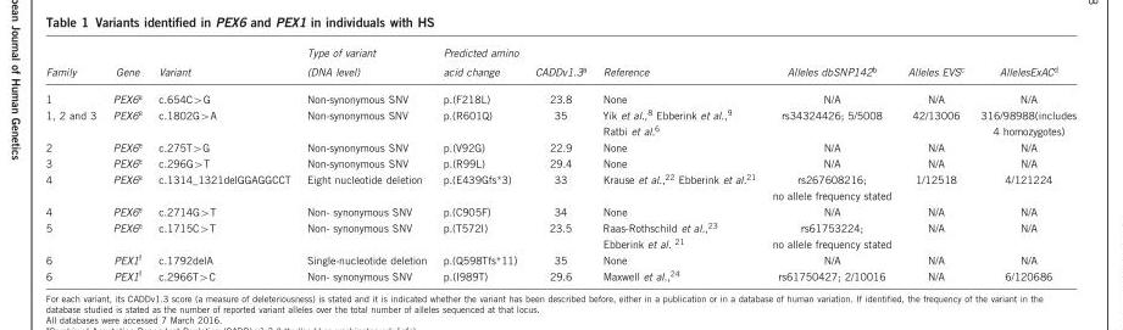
<table><thead><tr><td>Family</td><td>Gene</td><td>Variant</td><td>Type of variant (DNA level)</td><td>Predicted amino acid change</td><td>CADDv1.3<sup>a</sup></td><td>Reference</td><td>Alleles dbSNP142<sup>b</sup></td><td>Alleles EVS<sup>c</sup></td><td>AllelesExAC<sup>d</sup></td></tr></thead><tbody><tr><td>1</td><td>PEX6<sup>e</sup></td><td>c.654C&gt;G</td><td>Non-synonymous SNV</td><td>p.(F218L)</td><td>23.8</td><td>None</td><td>N/A</td><td>N/A</td><td>N/A</td></tr><tr><td>1, 2 and 3</td><td>PEX6<sup>e</sup></td><td>c.1802G&gt;A</td><td>Non-synonymous SNV</td><td>p.(R601Q)</td><td>35</td><td>Yik et al.,<sup>8</sup> Ebberink et al.,<sup>9</sup> Ratbi et al.<sup>6</sup></td><td>rs34324426; 5/5008</td><td>42/13006</td><td>316/98988(includes 4 homozygotes)</td></tr><tr><td>2</td><td>PEX6<sup>e</sup></td><td>c.275T&gt;G</td><td>Non-synonymous SNV</td><td>p.(V92G)</td><td>22.9</td><td>None</td><td>N/A</td><td>N/A</td><td>N/A</td></tr><tr><td>3</td><td>PEX6<sup>e</sup></td><td>c.296G&gt;T</td><td>Non-synonymous SNV</td><td>p.(R99L)</td><td>29.4</td><td>None</td><td>N/A</td><td>N/A</td><td>N/A</td></tr><tr><td>4</td><td>PEX6<sup>e</sup></td><td>c.1314_1321delGGAGGCCT</td><td>Eight nucleotide deletion</td><td>p.(E439Gfs*3)</td><td>33</td><td>Krause et al.,<sup>22</sup> Ebberink et al.<sup>21</sup></td><td>rs267608216; no allele frequency stated</td><td>1/12518</td><td>4/121224</td></tr><tr><td>4</td><td>PEX6<sup>e</sup></td><td>c.2714G&gt;T</td><td>Non- synonymous SNV</td><td>p.(C905F)</td><td>34</td><td>None</td><td>N/A</td><td>N/A</td><td>N/A</td></tr><tr><td>5</td><td>PEX6<sup>e</sup></td><td>c.1715C&gt;T</td><td>Non- synonymous SNV</td><td>p.(T572I)</td><td>23.5</td><td>Raas-Rothschild et al.,<sup>23</sup> Ebberink et al. <sup>21</sup></td><td>rs61753224; no allele frequency stated</td><td>N/A</td><td>N/A</td></tr><tr><td>6</td><td>PEX1<sup>f</sup></td><td>c.1792delA</td><td>Single-nucleotide deletion</td><td>p.(Q598Tfs*11)</td><td>35</td><td>None</td><td>N/A</td><td>N/A</td><td>N/A</td></tr><tr><td>6</td><td>PEX1<sup>f</sup></td><td>c.2966T&gt;C</td><td>Non- synonymous SNV</td><td>p.(I989T)</td><td>29.6</td><td>Maxwell et al.,<sup>24</sup></td><td>rs61750427; 2/10016</td><td>N/A</td><td>6/120686</td></tr></tbody></table>